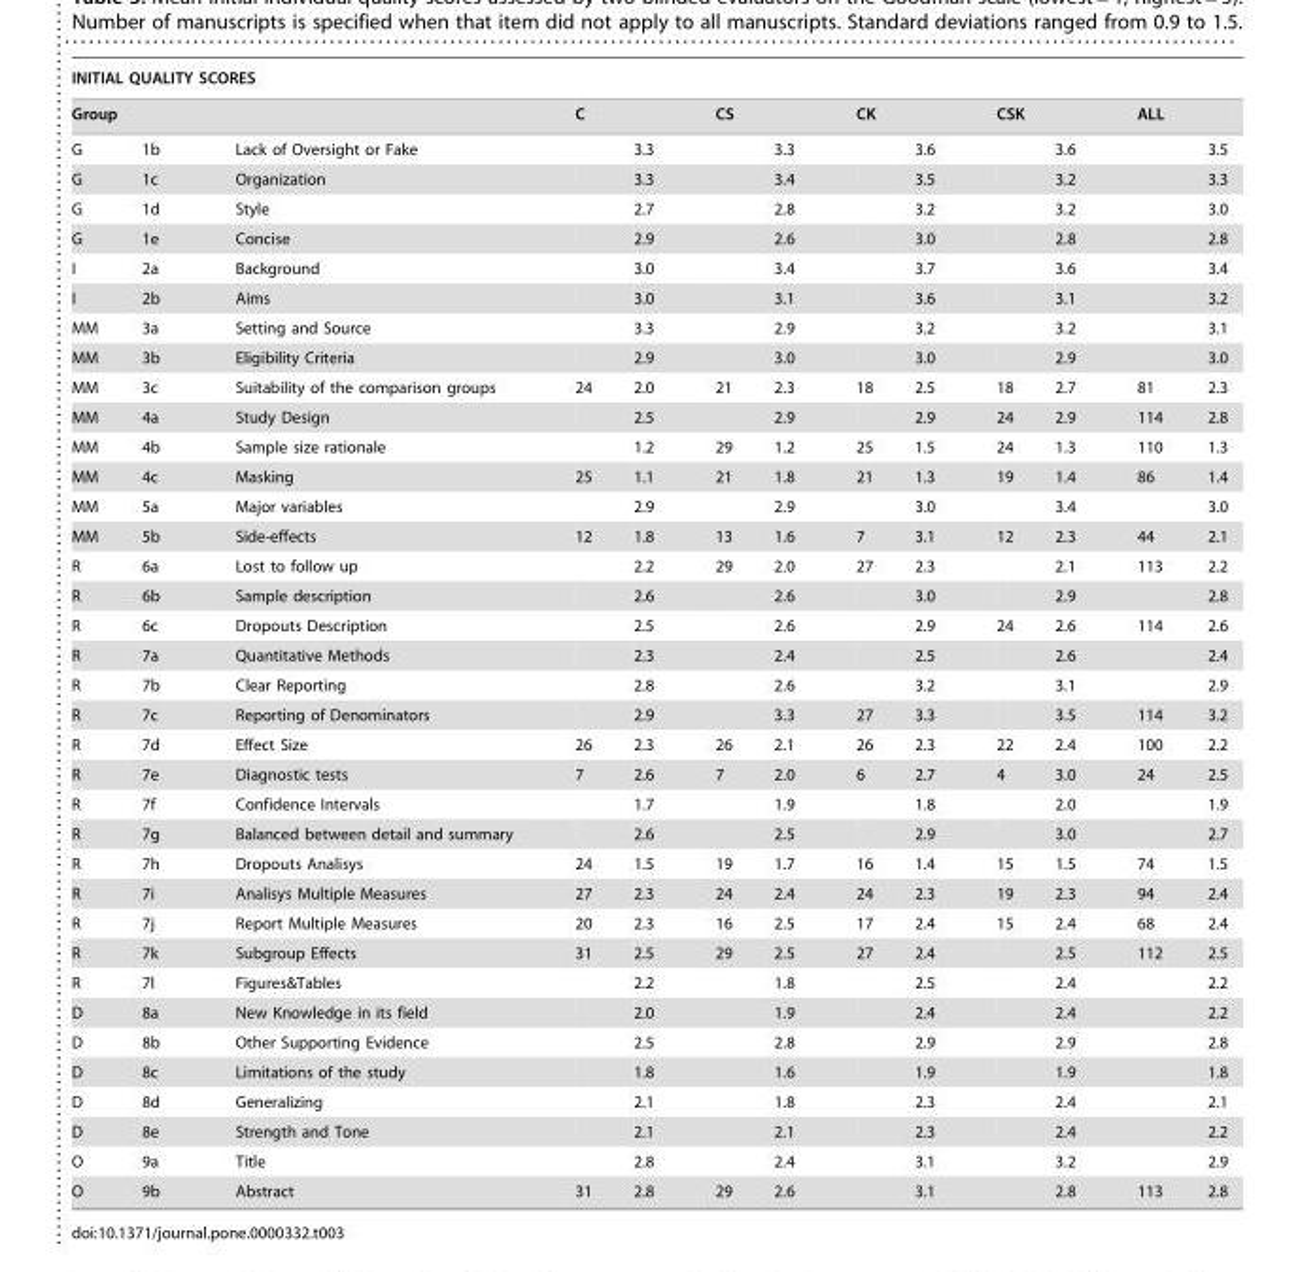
<table><thead><tr><td colspan="13">INITIAL QUALITY SCORES</td></tr><tr><td colspan="3">Group</td><td colspan="2">C</td><td colspan="2">CS</td><td colspan="2">CK</td><td colspan="2">CSK</td><td colspan="2">ALL</td></tr><tr><td>G</td><td>1b</td><td>Lack of Oversight or Fake</td><td></td><td>3.3</td><td></td><td>3.3</td><td></td><td>3.6</td><td></td><td>3.6</td><td></td><td>3.5</td></tr></thead><tbody><tr><td>G</td><td>1c</td><td>Organization</td><td></td><td>3.3</td><td></td><td>3.4</td><td></td><td>3.5</td><td></td><td>3.2</td><td></td><td>3.3</td></tr><tr><td>G</td><td>1d</td><td>Style</td><td></td><td>2.7</td><td></td><td>2.8</td><td></td><td>3.2</td><td></td><td>3.2</td><td></td><td>3.0</td></tr><tr><td>G</td><td>1e</td><td>Concise</td><td></td><td>2.9</td><td></td><td>2.6</td><td></td><td>3.0</td><td></td><td>2.8</td><td></td><td>2.8</td></tr><tr><td>I</td><td>2a</td><td>Background</td><td></td><td>3.0</td><td></td><td>3.4</td><td></td><td>3.7</td><td></td><td>3.6</td><td></td><td>3.4</td></tr><tr><td>I</td><td>2b</td><td>Aims</td><td></td><td>3.0</td><td></td><td>3.1</td><td></td><td>3.6</td><td></td><td>3.1</td><td></td><td>3.2</td></tr><tr><td>MM</td><td>3a</td><td>Setting and Source</td><td></td><td>3.3</td><td></td><td>2.9</td><td></td><td>3.2</td><td></td><td>3.2</td><td></td><td>3.1</td></tr><tr><td>MM</td><td>3b</td><td>Eligibility Criteria</td><td></td><td>2.9</td><td></td><td>3.0</td><td></td><td>3.0</td><td></td><td>2.9</td><td></td><td>3.0</td></tr><tr><td>MM</td><td>3c</td><td>Suitability of the comparison groups</td><td>24</td><td>2.0</td><td>21</td><td>2.3</td><td>18</td><td>2.5</td><td>18</td><td>2.7</td><td>81</td><td>2.3</td></tr><tr><td>MM</td><td>4a</td><td>Study Design</td><td></td><td>2.5</td><td></td><td>2.9</td><td></td><td>2.9</td><td>24</td><td>2.9</td><td>114</td><td>2.8</td></tr><tr><td>MM</td><td>4b</td><td>Sample size rationale</td><td></td><td>1.2</td><td>29</td><td>1.2</td><td>25</td><td>1.5</td><td>24</td><td>1.3</td><td>110</td><td>1.3</td></tr><tr><td>MM</td><td>4c</td><td>Masking</td><td>25</td><td>1.1</td><td>21</td><td>1.8</td><td>21</td><td>1.3</td><td>19</td><td>1.4</td><td>86</td><td>1.4</td></tr><tr><td>MM</td><td>5a</td><td>Major variables</td><td></td><td>2.9</td><td></td><td>2.9</td><td></td><td>3.0</td><td></td><td>3.4</td><td></td><td>3.0</td></tr><tr><td>MM</td><td>5b</td><td>Side-effects</td><td>12</td><td>1.8</td><td>13</td><td>1.6</td><td>7</td><td>3.1</td><td>12</td><td>2.3</td><td>44</td><td>2.1</td></tr><tr><td>R</td><td>6a</td><td>Lost to follow up</td><td></td><td>2.2</td><td>29</td><td>2.0</td><td>27</td><td>2.3</td><td></td><td>2.1</td><td>113</td><td>2.2</td></tr><tr><td>R</td><td>6b</td><td>Sample description</td><td></td><td>2.6</td><td></td><td>2.6</td><td></td><td>3.0</td><td></td><td>2.9</td><td></td><td>2.8</td></tr><tr><td>R</td><td>6c</td><td>Dropouts Description</td><td></td><td>2.5</td><td></td><td>2.6</td><td></td><td>2.9</td><td>24</td><td>2.6</td><td>114</td><td>2.6</td></tr><tr><td>R</td><td>7a</td><td>Quantitative Methods</td><td></td><td>2.3</td><td></td><td>2.4</td><td></td><td>2.5</td><td></td><td>2.6</td><td></td><td>2.4</td></tr><tr><td>R</td><td>7b</td><td>Clear Reporting</td><td></td><td>2.8</td><td></td><td>2.6</td><td></td><td>3.2</td><td></td><td>3.1</td><td></td><td>2.9</td></tr><tr><td>R</td><td>7c</td><td>Reporting of Denominators</td><td></td><td>2.9</td><td></td><td>3.3</td><td>27</td><td>3.3</td><td></td><td>3.5</td><td>114</td><td>3.2</td></tr><tr><td>R</td><td>7d</td><td>Effect Size</td><td>26</td><td>2.3</td><td>26</td><td>2.1</td><td>26</td><td>2.3</td><td>22</td><td>2.4</td><td>100</td><td>2.2</td></tr><tr><td>R</td><td>7e</td><td>Diagnostic tests</td><td>7</td><td>2.6</td><td>7</td><td>2.0</td><td>6</td><td>2.7</td><td>4</td><td>3.0</td><td>24</td><td>2.5</td></tr><tr><td>R</td><td>7f</td><td>Confidence Intervals</td><td></td><td>1.7</td><td></td><td>1.9</td><td></td><td>1.8</td><td></td><td>2.0</td><td></td><td>1.9</td></tr><tr><td>R</td><td>7g</td><td>Balanced between detail and summary</td><td></td><td>2.6</td><td></td><td>2.5</td><td></td><td>2.9</td><td></td><td>3.0</td><td></td><td>2.7</td></tr><tr><td>R</td><td>7h</td><td>Dropouts Analisys</td><td>24</td><td>1.5</td><td>19</td><td>1.7</td><td>16</td><td>1.4</td><td>15</td><td>1.5</td><td>74</td><td>1.5</td></tr><tr><td>R</td><td>7i</td><td>Analisys Multiple Measures</td><td>27</td><td>2.3</td><td>24</td><td>2.4</td><td>24</td><td>2.3</td><td>19</td><td>2.3</td><td>94</td><td>2.4</td></tr><tr><td>R</td><td>7j</td><td>Report Multiple Measures</td><td>20</td><td>2.3</td><td>16</td><td>2.5</td><td>17</td><td>2.4</td><td>15</td><td>2.4</td><td>68</td><td>2.4</td></tr><tr><td>R</td><td>7k</td><td>Subgroup Effects</td><td>31</td><td>2.5</td><td>29</td><td>2.5</td><td>27</td><td>2.4</td><td></td><td>2.5</td><td>112</td><td>2.5</td></tr><tr><td>R</td><td>7l</td><td>Figures&amp;Tables</td><td></td><td>2.2</td><td></td><td>1.8</td><td></td><td>2.5</td><td></td><td>2.4</td><td></td><td>2.2</td></tr><tr><td>D</td><td>8a</td><td>New Knowledge in its field</td><td></td><td>2.0</td><td></td><td>1.9</td><td></td><td>2.4</td><td></td><td>2.4</td><td></td><td>2.2</td></tr><tr><td>D</td><td>8b</td><td>Other Supporting Evidence</td><td></td><td>2.5</td><td></td><td>2.8</td><td></td><td>2.9</td><td></td><td>2.9</td><td></td><td>2.8</td></tr><tr><td>D</td><td>8c</td><td>Limitations of the study</td><td></td><td>1.8</td><td></td><td>1.6</td><td></td><td>1.9</td><td></td><td>1.9</td><td></td><td>1.8</td></tr><tr><td>D</td><td>8d</td><td>Generalizing</td><td></td><td>2.1</td><td></td><td>1.8</td><td></td><td>2.3</td><td></td><td>2.4</td><td></td><td>2.1</td></tr><tr><td>D</td><td>8e</td><td>Strength and Tone</td><td></td><td>2.1</td><td></td><td>2.1</td><td></td><td>2.3</td><td></td><td>2.4</td><td></td><td>2.2</td></tr><tr><td>O</td><td>9a</td><td>Title</td><td></td><td>2.8</td><td></td><td>2.4</td><td></td><td>3.1</td><td></td><td>3.2</td><td></td><td>2.9</td></tr><tr><td>O</td><td>9b</td><td>Abstract</td><td>31</td><td>2.8</td><td>29</td><td>2.6</td><td></td><td>3.1</td><td></td><td>2.8</td><td>113</td><td>2.8</td></tr></tbody></table>